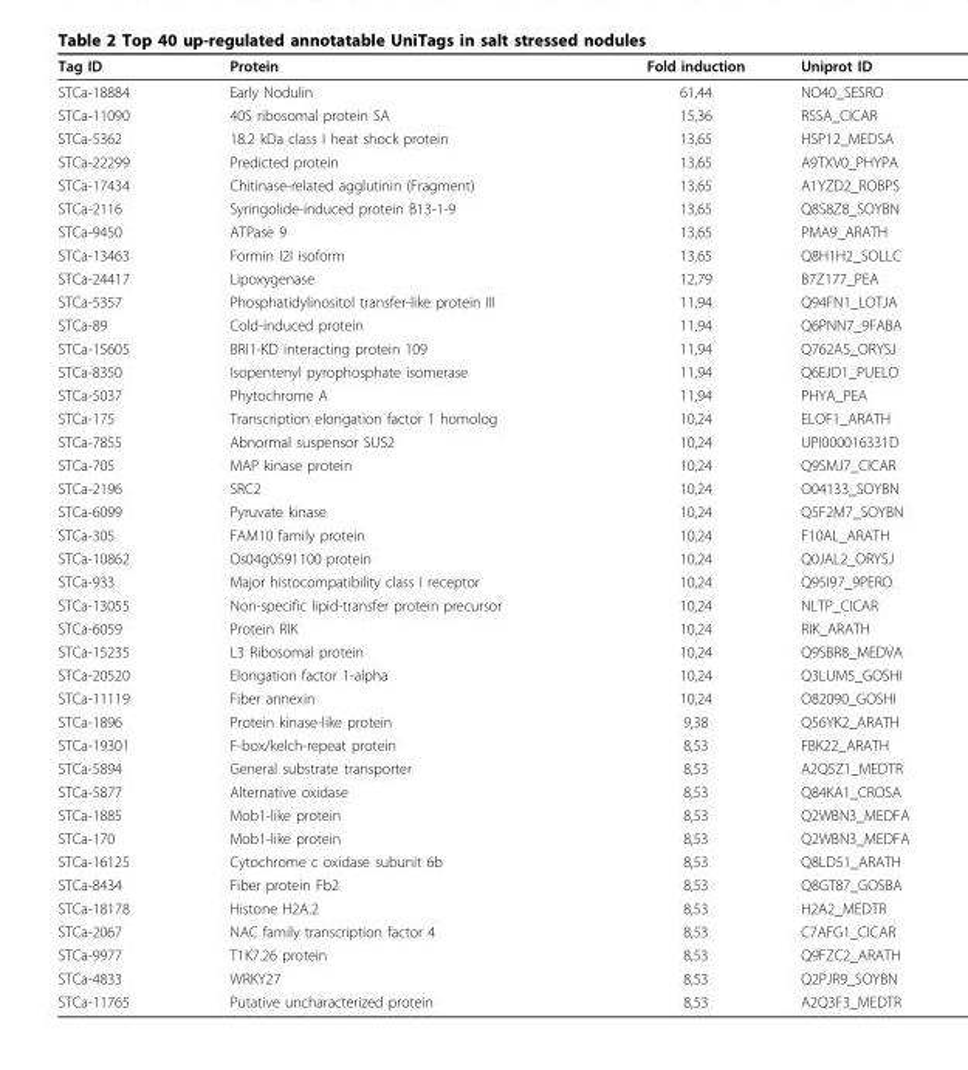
<table><thead><tr><td>Tag ID</td><td>Protein</td><td>Fold induction</td><td>Uniprot ID</td></tr></thead><tbody><tr><td>STCa-18884</td><td>Early Nodulin</td><td>61,44</td><td>NO40_SESRO</td></tr><tr><td>STCa-11090</td><td>40S ribosomal protein SA</td><td>15,36</td><td>RSSA_CICAR</td></tr><tr><td>STCa-5362</td><td>18.2 kDa class I heat shock protein</td><td>13,65</td><td>HSP12_MEDSA</td></tr><tr><td>STCa-22299</td><td>Predicted protein</td><td>13,65</td><td>A9TXV0_PHYPA</td></tr><tr><td>STCa-17434</td><td>Chitinase-related agglutinin (Fragment)</td><td>13,65</td><td>A1YZD2_ROBPS</td></tr><tr><td>STCa-2116</td><td>Syringolide-induced protein B13-1-9</td><td>13,65</td><td>Q8S8Z8_SOYBN</td></tr><tr><td>STCa-9450</td><td>ATPase 9</td><td>13,65</td><td>PMA9_ARATH</td></tr><tr><td>STCa-13463</td><td>Formin I2I isoform</td><td>13,65</td><td>Q8H1H2_SOLLC</td></tr><tr><td>STCa-24417</td><td>Lipoxygenase</td><td>12,79</td><td>B7Z177_PEA</td></tr><tr><td>STCa-5357</td><td>Phosphatidylinositol transfer-like protein III</td><td>11,94</td><td>Q94FN1_LOTJA</td></tr><tr><td>STCa-89</td><td>Cold-induced protein</td><td>11,94</td><td>Q6PNN7_9FABA</td></tr><tr><td>STCa-15605</td><td>BRI1-KD interacting protein 109</td><td>11,94</td><td>Q762A5_ORYSJ</td></tr><tr><td>STCa-8350</td><td>Isopentenyl pyrophosphate isomerase</td><td>11,94</td><td>Q6EJD1_PUELO</td></tr><tr><td>STCa-5037</td><td>Phytochrome A</td><td>11,94</td><td>PHYA_PEA</td></tr><tr><td>STCa-175</td><td>Transcription elongation factor 1 homolog</td><td>10,24</td><td>ELOF1_ARATH</td></tr><tr><td>STCa-7855</td><td>Abnormal suspensor SUS2</td><td>10,24</td><td>UPI000016331D</td></tr><tr><td>STCa-705</td><td>MAP kinase protein</td><td>10,24</td><td>Q9SMJ7_CICAR</td></tr><tr><td>STCa-2196</td><td>SRC2</td><td>10,24</td><td>O04133_SOYBN</td></tr><tr><td>STCa-6099</td><td>Pyruvate kinase</td><td>10,24</td><td>Q5F2M7_SOYBN</td></tr><tr><td>STCa-305</td><td>FAM10 family protein</td><td>10,24</td><td>F10AL_ARATH</td></tr><tr><td>STCa-10862</td><td>Os04g0591100 protein</td><td>10,24</td><td>Q0JAL2_ORYSJ</td></tr><tr><td>STCa-933</td><td>Major histocompatibility class I receptor</td><td>10,24</td><td>Q95I97_9PERO</td></tr><tr><td>STCa-13055</td><td>Non-specific lipid-transfer protein precursor</td><td>10,24</td><td>NLTP_CICAR</td></tr><tr><td>STCa-6059</td><td>Protein RIK</td><td>10,24</td><td>RIK_ARATH</td></tr><tr><td>STCa-15235</td><td>L3 Ribosomal protein</td><td>10,24</td><td>Q9SBR8_MEDVA</td></tr><tr><td>STCa-20520</td><td>Elongation factor 1-alpha</td><td>10,24</td><td>Q3LUM5_GOSHI</td></tr><tr><td>STCa-11119</td><td>Fiber annexin</td><td>10,24</td><td>O82090_GOSHI</td></tr><tr><td>STCa-1896</td><td>Protein kinase-like protein</td><td>9,38</td><td>Q56YK2_ARATH</td></tr><tr><td>STCa-19301</td><td>F-box/kelch-repeat protein</td><td>8,53</td><td>FBK22_ARATH</td></tr><tr><td>STCa-5894</td><td>General substrate transporter</td><td>8,53</td><td>A2Q5Z1_MEDTR</td></tr><tr><td>STCa-5877</td><td>Alternative oxidase</td><td>8,53</td><td>Q84KA1_CROSA</td></tr><tr><td>STCa-1885</td><td>Mob1-like protein</td><td>8,53</td><td>Q2WBN3_MEDFA</td></tr><tr><td>STCa-170</td><td>Mob1-like protein</td><td>8,53</td><td>Q2WBN3_MEDFA</td></tr><tr><td>STCa-16125</td><td>Cytochrome c oxidase subunit 6b</td><td>8,53</td><td>Q8LD51_ARATH</td></tr><tr><td>STCa-8434</td><td>Fiber protein Fb2</td><td>8,53</td><td>Q8GT87_GOSBA</td></tr><tr><td>STCa-18178</td><td>Histone H2A.2</td><td>8,53</td><td>H2A2_MEDTR</td></tr><tr><td>STCa-2067</td><td>NAC family transcription factor 4</td><td>8,53</td><td>C7AFG1_CICAR</td></tr><tr><td>STCa-9977</td><td>T1K7.26 protein</td><td>8,53</td><td>Q9FZC2_ARATH</td></tr><tr><td>STCa-4833</td><td>WRKY27</td><td>8,53</td><td>Q2PJR9_SOYBN</td></tr><tr><td>STCa-11765</td><td>Putative uncharacterized protein</td><td>8,53</td><td>A2Q3F3_MEDTR</td></tr></tbody></table>